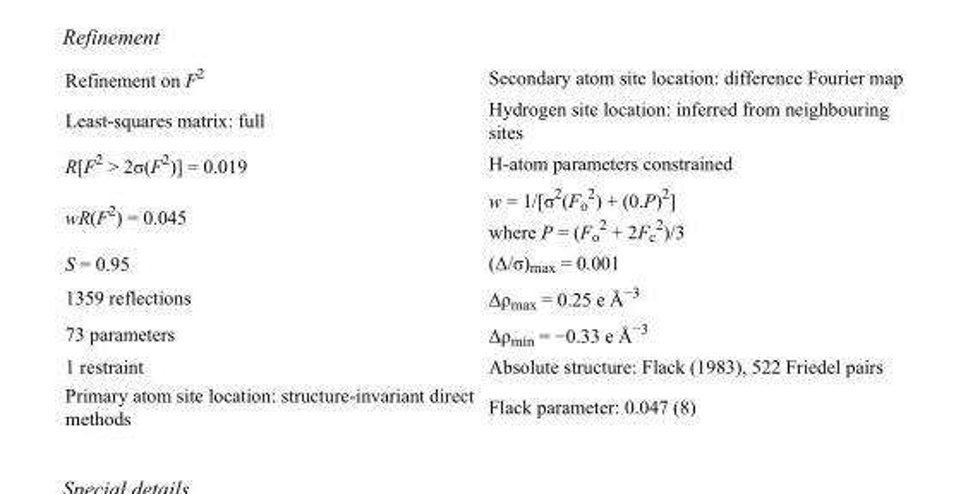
<table><tbody><tr><td>Refinement on F<sup>2</sup></td><td>Secondary atom site location: difference Fourier map</td></tr><tr><td>Least-squares matrix: full</td><td>Hydrogen site location: inferred from neighbouring sites</td></tr><tr><td>R[F<sup>2</sup> &gt; 2σ(F<sup>2</sup>)] = 0.019</td><td>H-atom parameters constrained</td></tr><tr><td>wR(F<sup>2</sup>) = 0.045</td><td>w = 1/[σ<sup>2</sup>(F<sub>o</sub> <sup>2</sup>) + (0.P)<sup>2</sup>] where P = (F<sub>o</sub> <sup>2</sup> + 2F<sub>c</sub> <sup>2</sup>)/3</td></tr><tr><td>S = 0.95</td><td>(Δ/σ)<sub>max</sub> = 0.001</td></tr><tr><td>1359 reflections</td><td>Δρ<sub>max</sub> = 0.25 e Å<sup>−3</sup></td></tr><tr><td>73 parameters</td><td>Δρ<sub>min</sub> = −0.33 e Å<sup>−3</sup></td></tr><tr><td>1 restraint</td><td>Absolute structure: Flack (1983), 522 Friedel pairs</td></tr><tr><td>Primary atom site location: structure-invariant direct methods</td><td>Flack parameter: 0.047 (8)</td></tr></tbody></table>